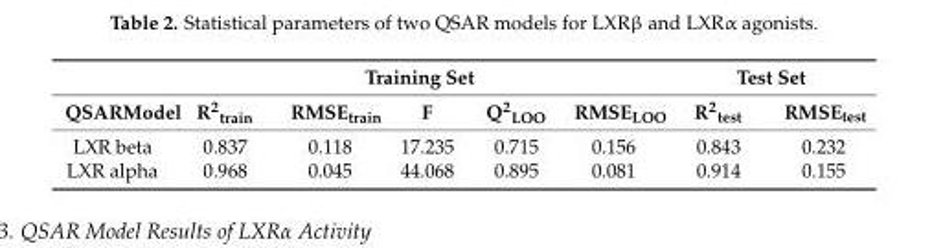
<table><thead><tr><td rowspan="2">QSARModel</td><td colspan="5">Training Set</td><td colspan="2">Test Set</td></tr><tr><td>R<sup>2</sup><sub>train</sub></td><td>RMSE<sub>train</sub></td><td>F</td><td>Q<sup>2</sup><sub>LOO</sub></td><td>RMSE<sub>LOO</sub></td><td>R<sup>2</sup><sub>test</sub></td><td>RMSE<sub>test</sub></td></tr></thead><tbody><tr><td>LXR beta</td><td>0.837</td><td>0.118</td><td>17.235</td><td>0.715</td><td>0.156</td><td>0.843</td><td>0.232</td></tr><tr><td>LXR alpha</td><td>0.968</td><td>0.045</td><td>44.068</td><td>0.895</td><td>0.081</td><td>0.914</td><td>0.155</td></tr></tbody></table>